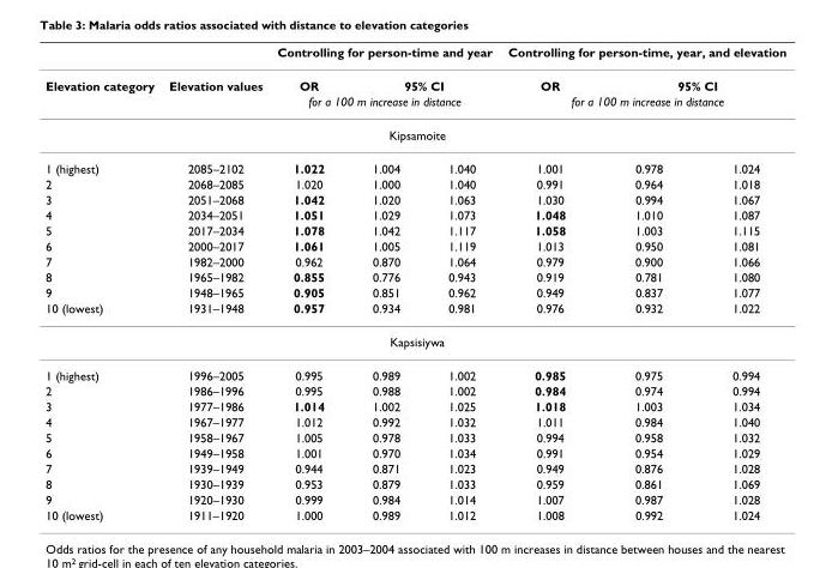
<table><thead><tr><td></td><td></td><td colspan="3">Controlling for person-time and year</td><td colspan="3">Controlling for person-time, year, and elevation</td></tr></thead><tbody><tr><td rowspan="2">Elevation category</td><td>Elevation values</td><td>OR</td><td colspan="2">95% CI</td><td>OR</td><td colspan="2">95% CI</td></tr><tr><td></td><td colspan="3">for a 100 m increase in distance</td><td colspan="3">for a 100 m increase in distance</td></tr><tr><td colspan="8">Kipsamoite</td></tr><tr><td>1 (highest)</td><td>2085–2102</td><td>1.022</td><td>1.004</td><td>1.040</td><td>1.001</td><td>0.978</td><td>1.024</td></tr><tr><td>2</td><td>2068–2085</td><td>1.020</td><td>1.000</td><td>1.040</td><td>0.991</td><td>0.964</td><td>1.018</td></tr><tr><td>3</td><td>2051–2068</td><td>1.042</td><td>1.020</td><td>1.063</td><td>1.030</td><td>0.994</td><td>1.067</td></tr><tr><td>4</td><td>2034–2051</td><td>1.051</td><td>1.029</td><td>1.073</td><td>1.048</td><td>1.010</td><td>1.087</td></tr><tr><td>5</td><td>2017–2034</td><td>1.078</td><td>1.042</td><td>1.117</td><td>1.058</td><td>1.003</td><td>1.115</td></tr><tr><td>6</td><td>2000–2017</td><td>1.061</td><td>1.005</td><td>1.119</td><td>1.013</td><td>0.950</td><td>1.081</td></tr><tr><td>7</td><td>1982–2000</td><td>0.962</td><td>0.870</td><td>1.064</td><td>0.979</td><td>0.900</td><td>1.066</td></tr><tr><td>8</td><td>1965–1982</td><td>0.855</td><td>0.776</td><td>0.943</td><td>0.919</td><td>0.781</td><td>1.080</td></tr><tr><td>9</td><td>1948–1965</td><td>0.905</td><td>0.851</td><td>0.962</td><td>0.949</td><td>0.837</td><td>1.077</td></tr><tr><td>10 (lowest)</td><td>1931–1948</td><td>0.957</td><td>0.934</td><td>0.981</td><td>0.976</td><td>0.932</td><td>1.022</td></tr><tr><td colspan="8">Kapsisiywa</td></tr><tr><td>1 (highest)</td><td>1996–2005</td><td>0.995</td><td>0.989</td><td>1.002</td><td>0.985</td><td>0.975</td><td>0.994</td></tr><tr><td>2</td><td>1986–1996</td><td>0.995</td><td>0.988</td><td>1.002</td><td>0.984</td><td>0.974</td><td>0.994</td></tr><tr><td>3</td><td>1977–1986</td><td>1.014</td><td>1.002</td><td>1.025</td><td>1.018</td><td>1.003</td><td>1.034</td></tr><tr><td>4</td><td>1967–1977</td><td>1.012</td><td>0.992</td><td>1.032</td><td>1.011</td><td>0.984</td><td>1.040</td></tr><tr><td>5</td><td>1958–1967</td><td>1.005</td><td>0.978</td><td>1.033</td><td>0.994</td><td>0.958</td><td>1.032</td></tr><tr><td>6</td><td>1949–1958</td><td>1.001</td><td>0.970</td><td>1.034</td><td>0.991</td><td>0.954</td><td>1.029</td></tr><tr><td>7</td><td>1939–1949</td><td>0.944</td><td>0.871</td><td>1.023</td><td>0.949</td><td>0.876</td><td>1.028</td></tr><tr><td>8</td><td>1930–1939</td><td>0.953</td><td>0.879</td><td>1.033</td><td>0.959</td><td>0.861</td><td>1.069</td></tr><tr><td>9</td><td>1920–1930</td><td>0.999</td><td>0.984</td><td>1.014</td><td>1.007</td><td>0.987</td><td>1.028</td></tr><tr><td>10 (lowest)</td><td>1911–1920</td><td>1.000</td><td>0.989</td><td>1.012</td><td>1.008</td><td>0.992</td><td>1.024</td></tr></tbody></table>